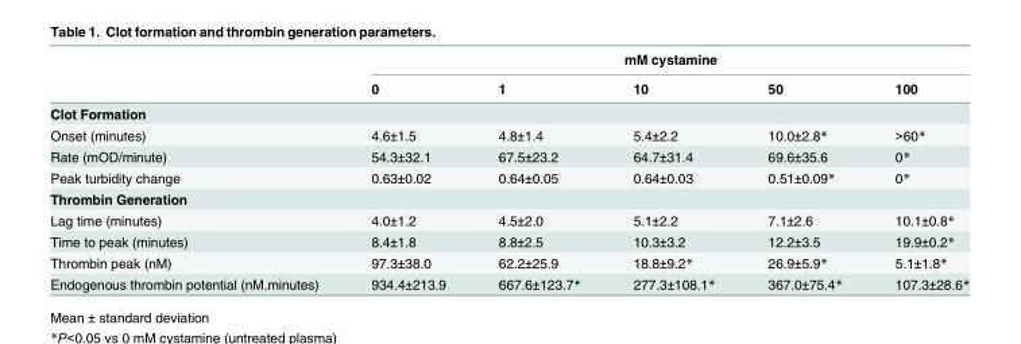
<table><thead><tr><td rowspan="2"></td><td colspan="5">mM cystamine</td></tr><tr><td>0</td><td>1</td><td>10</td><td>50</td><td>100</td></tr></thead><tbody><tr><td colspan="6">Clot Formation</td></tr><tr><td>Onset (minutes)</td><td>4.6±1.5</td><td>4.8±1.4</td><td>5.4±2.2</td><td>10.0±2.8*</td><td>&gt;60*</td></tr><tr><td>Rate (mOD/minute)</td><td>54.3±32.1</td><td>67.5±23.2</td><td>64.7±31.4</td><td>69.6±35.6</td><td>0*</td></tr><tr><td>Peak turbidity change</td><td>0.63±0.02</td><td>0.64±0.05</td><td>0.64±0.03</td><td>0.51±0.09*</td><td>0*</td></tr><tr><td colspan="6">Thrombin Generation</td></tr><tr><td>Lag time (minutes)</td><td>4.0±1.2</td><td>4.5±2.0</td><td>5.1±2.2</td><td>7.1±2.6</td><td>10.1±0.8*</td></tr><tr><td>Time to peak (minutes)</td><td>8.4±1.8</td><td>8.8±2.5</td><td>10.3±3.2</td><td>12.2±3.5</td><td>19.9±0.2*</td></tr><tr><td>Thrombin peak (nM)</td><td>97.3±38.0</td><td>62.2±25.9</td><td>18.8±9.2*</td><td>26.9±5.9*</td><td>5.1±1.8*</td></tr><tr><td>Endogenous thrombin potential (nM.minutes)</td><td>934.4±213.9</td><td>667.6±123.7*</td><td>277.3±108.1*</td><td>367.0±75.4*</td><td>107.3±28.6*</td></tr></tbody></table>